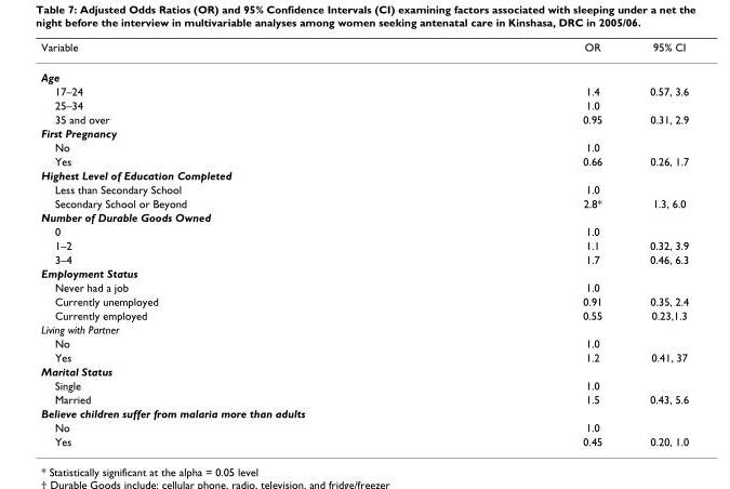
<table><thead><tr><td>Variable</td><td>OR</td><td>95% CI</td></tr></thead><tbody><tr><td colspan="3">Age</td></tr><tr><td>17–24</td><td>1.4</td><td>0.57, 3.6</td></tr><tr><td>25–34</td><td>1.0</td><td></td></tr><tr><td>35 and over</td><td>0.95</td><td>0.31, 2.9</td></tr><tr><td colspan="3">First Pregnancy</td></tr><tr><td>No</td><td>1.0</td><td></td></tr><tr><td>Yes</td><td>0.66</td><td>0.26, 1.7</td></tr><tr><td colspan="3">Highest Level of Education Completed</td></tr><tr><td>Less than Secondary School</td><td>1.0</td><td></td></tr><tr><td>Secondary School or Beyond</td><td>2.8*</td><td>1.3, 6.0</td></tr><tr><td colspan="3">Number of Durable Goods Owned</td></tr><tr><td>0</td><td>1.0</td><td></td></tr><tr><td>1–2</td><td>1.1</td><td>0.32, 3.9</td></tr><tr><td>3–4</td><td>1.7</td><td>0.46, 6.3</td></tr><tr><td colspan="3">Employment Status</td></tr><tr><td>Never had a job</td><td>1.0</td><td></td></tr><tr><td>Currently unemployed</td><td>0.91</td><td>0.35, 2.4</td></tr><tr><td>Currently employed</td><td>0.55</td><td>0.23,1.3</td></tr><tr><td colspan="3">Living with Partner</td></tr><tr><td>No</td><td>1.0</td><td></td></tr><tr><td>Yes</td><td>1.2</td><td>0.41, 37</td></tr><tr><td colspan="3">Marital Status</td></tr><tr><td>Single</td><td>1.0</td><td></td></tr><tr><td>Married</td><td>1.5</td><td>0.43, 5.6</td></tr><tr><td colspan="3">Believe children suffer from malaria more than adults</td></tr><tr><td>No</td><td>1.0</td><td></td></tr><tr><td>Yes</td><td>0.45</td><td>0.20, 1.0</td></tr></tbody></table>